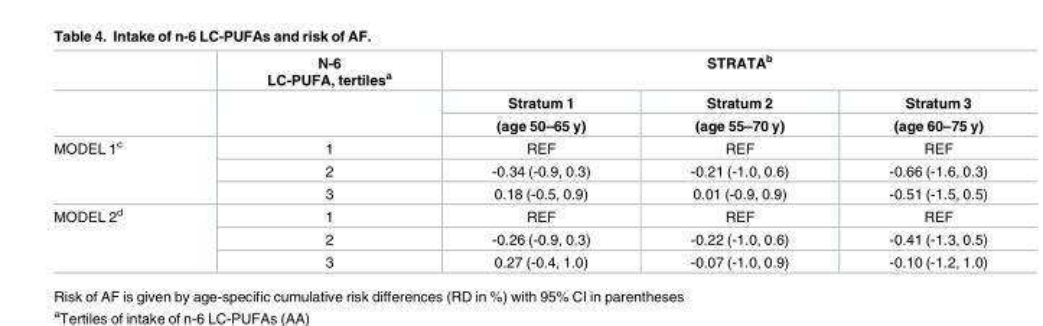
<table><thead><tr><td rowspan="3"></td><td rowspan="3">N-6 LC-PUFA, tertiles<sup>a</sup></td><td colspan="3">STRATA<sup>b</sup></td></tr><tr><td rowspan="2">Stratum 1 (age 50–65 y)</td><td rowspan="2">Stratum 2 (age 55–70 y)</td><td rowspan="2">Stratum 3 (age 60–75 y)</td></tr><tr></tr></thead><tbody><tr><td rowspan="3">MODEL 1<sup>c</sup></td><td>1</td><td>REF</td><td>REF</td><td>REF</td></tr><tr><td>2</td><td>-0.34 (-0.9, 0.3)</td><td>-0.21 (-1.0, 0.6)</td><td>-0.66 (-1.6, 0.3)</td></tr><tr><td>3</td><td>0.18 (-0.5, 0.9)</td><td>0.01 (-0.9, 0.9)</td><td>-0.51 (-1.5, 0.5)</td></tr><tr><td rowspan="3">MODEL 2<sup>d</sup></td><td>1</td><td>REF</td><td>REF</td><td>REF</td></tr><tr><td>2</td><td>-0.26 (-0.9, 0.3)</td><td>-0.22 (-1.0, 0.6)</td><td>-0.41 (-1.3, 0.5)</td></tr><tr><td>3</td><td>0.27 (-0.4, 1.0)</td><td>-0.07 (-1.0, 0.9)</td><td>-0.10 (-1.2, 1.0)</td></tr></tbody></table>